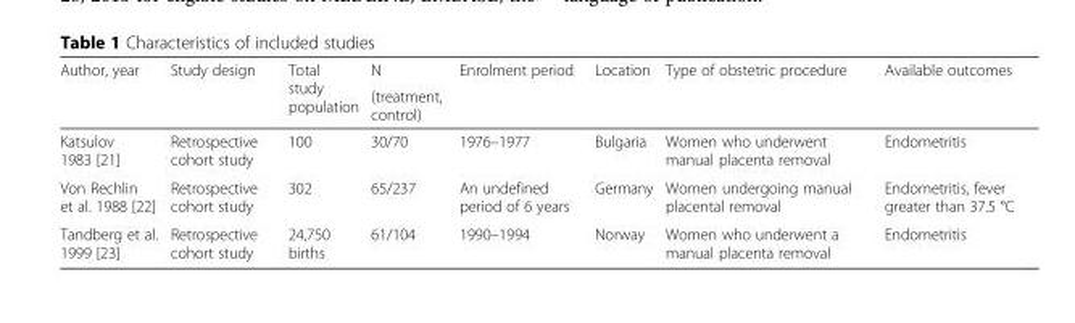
<table><thead><tr><td rowspan="2">Author, year</td><td rowspan="2">Study design</td><td rowspan="2">Total study population</td><td rowspan="2">N (treatment, control)</td><td rowspan="2">Enrolment period</td><td rowspan="2">Location</td><td rowspan="2">Type of obstetric procedure</td><td rowspan="2">Available outcomes</td></tr><tr></tr></thead><tbody><tr><td>Katsulov 1983 [21]</td><td>Retrospective cohort study</td><td>100</td><td>30/70</td><td>1976–1977</td><td>Bulgaria</td><td>Women who underwent manual placenta removal</td><td>Endometritis</td></tr><tr><td>Von Rechlin et al. 1988 [22]</td><td>Retrospective cohort study</td><td>302</td><td>65/237</td><td>An undefined period of 6 years</td><td>Germany</td><td>Women undergoing manual placental removal</td><td>Endometritis, fever greater than 37.5 °C</td></tr><tr><td>Tandberg et al. 1999 [23]</td><td>Retrospective cohort study</td><td>24,750 births</td><td>61/104</td><td>1990–1994</td><td>Norway</td><td>Women who underwent a manual placenta removal</td><td>Endometritis</td></tr></tbody></table>